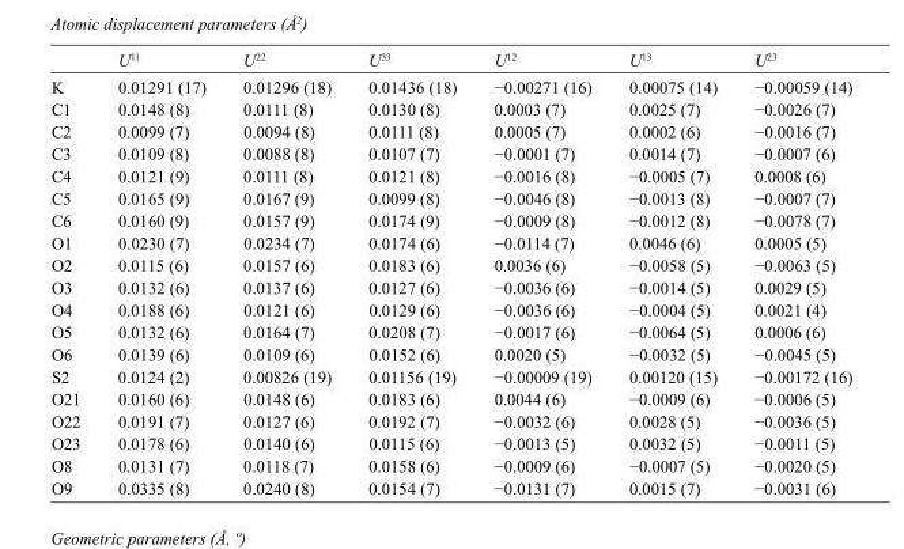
<table><thead><tr><td></td><td>U<sup>11</sup></td><td>U<sup>22</sup></td><td>U<sup>33</sup></td><td>U<sup>12</sup></td><td>U<sup>13</sup></td><td>U<sup>23</sup></td></tr></thead><tbody><tr><td>K</td><td>0.01291 (17)</td><td>0.01296 (18)</td><td>0.01436 (18)</td><td>−0.00271 (16)</td><td>0.00075 (14)</td><td>−0.00059 (14)</td></tr><tr><td>C1</td><td>0.0148 (8)</td><td>0.0111 (8)</td><td>0.0130 (8)</td><td>0.0003 (7)</td><td>0.0025 (7)</td><td>−0.0026 (7)</td></tr><tr><td>C2</td><td>0.0099 (7)</td><td>0.0094 (8)</td><td>0.0111 (8)</td><td>0.0005 (7)</td><td>0.0002 (6)</td><td>−0.0016 (7)</td></tr><tr><td>C3</td><td>0.0109 (8)</td><td>0.0088 (8)</td><td>0.0107 (7)</td><td>−0.0001 (7)</td><td>0.0014 (7)</td><td>−0.0007 (6)</td></tr><tr><td>C4</td><td>0.0121 (9)</td><td>0.0111 (8)</td><td>0.0121 (8)</td><td>−0.0016 (8)</td><td>−0.0005 (7)</td><td>0.0008 (6)</td></tr><tr><td>C5</td><td>0.0165 (9)</td><td>0.0167 (9)</td><td>0.0099 (8)</td><td>−0.0046 (8)</td><td>−0.0013 (8)</td><td>−0.0007 (7)</td></tr><tr><td>C6</td><td>0.0160 (9)</td><td>0.0157 (9)</td><td>0.0174 (9)</td><td>−0.0009 (8)</td><td>−0.0012 (8)</td><td>−0.0078 (7)</td></tr><tr><td>O1</td><td>0.0230 (7)</td><td>0.0234 (7)</td><td>0.0174 (6)</td><td>−0.0114 (7)</td><td>0.0046 (6)</td><td>0.0005 (5)</td></tr><tr><td>O2</td><td>0.0115 (6)</td><td>0.0157 (6)</td><td>0.0183 (6)</td><td>0.0036 (6)</td><td>−0.0058 (5)</td><td>−0.0063 (5)</td></tr><tr><td>O3</td><td>0.0132 (6)</td><td>0.0137 (6)</td><td>0.0127 (6)</td><td>−0.0036 (6)</td><td>−0.0014 (5)</td><td>0.0029 (5)</td></tr><tr><td>O4</td><td>0.0188 (6)</td><td>0.0121 (6)</td><td>0.0129 (6)</td><td>−0.0036 (6)</td><td>−0.0004 (5)</td><td>0.0021 (4)</td></tr><tr><td>O5</td><td>0.0132 (6)</td><td>0.0164 (7)</td><td>0.0208 (7)</td><td>−0.0017 (6)</td><td>−0.0064 (5)</td><td>0.0006 (6)</td></tr><tr><td>O6</td><td>0.0139 (6)</td><td>0.0109 (6)</td><td>0.0152 (6)</td><td>0.0020 (5)</td><td>−0.0032 (5)</td><td>−0.0045 (5)</td></tr><tr><td>S2</td><td>0.0124 (2)</td><td>0.00826 (19)</td><td>0.01156 (19)</td><td>−0.00009 (19)</td><td>0.00120 (15)</td><td>−0.00172 (16)</td></tr><tr><td>O21</td><td>0.0160 (6)</td><td>0.0148 (6)</td><td>0.0183 (6)</td><td>0.0044 (6)</td><td>−0.0009 (6)</td><td>−0.0006 (5)</td></tr><tr><td>O22</td><td>0.0191 (7)</td><td>0.0127 (6)</td><td>0.0192 (7)</td><td>−0.0032 (6)</td><td>0.0028 (5)</td><td>−0.0036 (5)</td></tr><tr><td>O23</td><td>0.0178 (6)</td><td>0.0140 (6)</td><td>0.0115 (6)</td><td>−0.0013 (5)</td><td>0.0032 (5)</td><td>−0.0011 (5)</td></tr><tr><td>O8</td><td>0.0131 (7)</td><td>0.0118 (7)</td><td>0.0158 (6)</td><td>−0.0009 (6)</td><td>−0.0007 (5)</td><td>−0.0020 (5)</td></tr><tr><td>O9</td><td>0.0335 (8)</td><td>0.0240 (8)</td><td>0.0154 (7)</td><td>−0.0131 (7)</td><td>0.0015 (7)</td><td>−0.0031 (6)</td></tr></tbody></table>